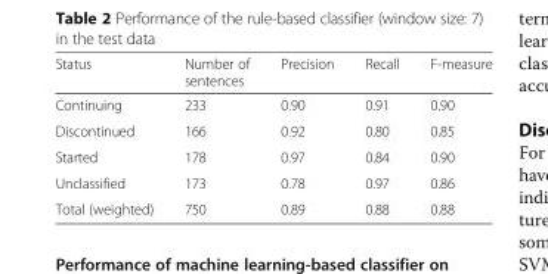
<table><thead><tr><td>Status</td><td>Number of sentences</td><td>Precision</td><td>Recall</td><td>F-measure</td></tr></thead><tbody><tr><td>Continuing</td><td>233</td><td>0.90</td><td>0.91</td><td>0.90</td></tr><tr><td>Discontinued</td><td>166</td><td>0.92</td><td>0.80</td><td>0.85</td></tr><tr><td>Started</td><td>178</td><td>0.97</td><td>0.84</td><td>0.90</td></tr><tr><td>Unclassified</td><td>173</td><td>0.78</td><td>0.97</td><td>0.86</td></tr><tr><td>Total (weighted)</td><td>750</td><td>0.89</td><td>0.88</td><td>0.88</td></tr></tbody></table>